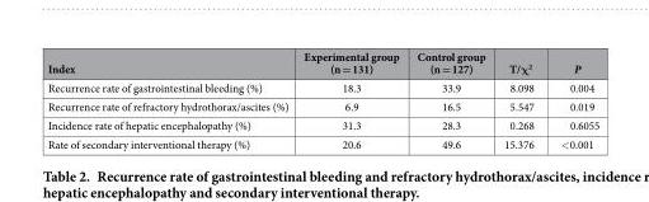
<table><thead><tr><td>Index</td><td>Experimental group (n = 131)</td><td>Control group (n = 127)</td><td>T/χ<sup>2</sup></td><td>P</td></tr></thead><tbody><tr><td>Recurrence rate of gastrointestinal bleeding (%)</td><td>18.3</td><td>33.9</td><td>8.098</td><td>0.004</td></tr><tr><td>Recurrence rate of refractory hydrothorax/ascites (%)</td><td>6.9</td><td>16.5</td><td>5.547</td><td>0.019</td></tr><tr><td>Incidence rate of hepatic encephalopathy (%)</td><td>31.3</td><td>28.3</td><td>0.268</td><td>0.6055</td></tr><tr><td>Rate of secondary interventional therapy (%)</td><td>20.6</td><td>49.6</td><td>15.376</td><td>&lt;0.001</td></tr></tbody></table>